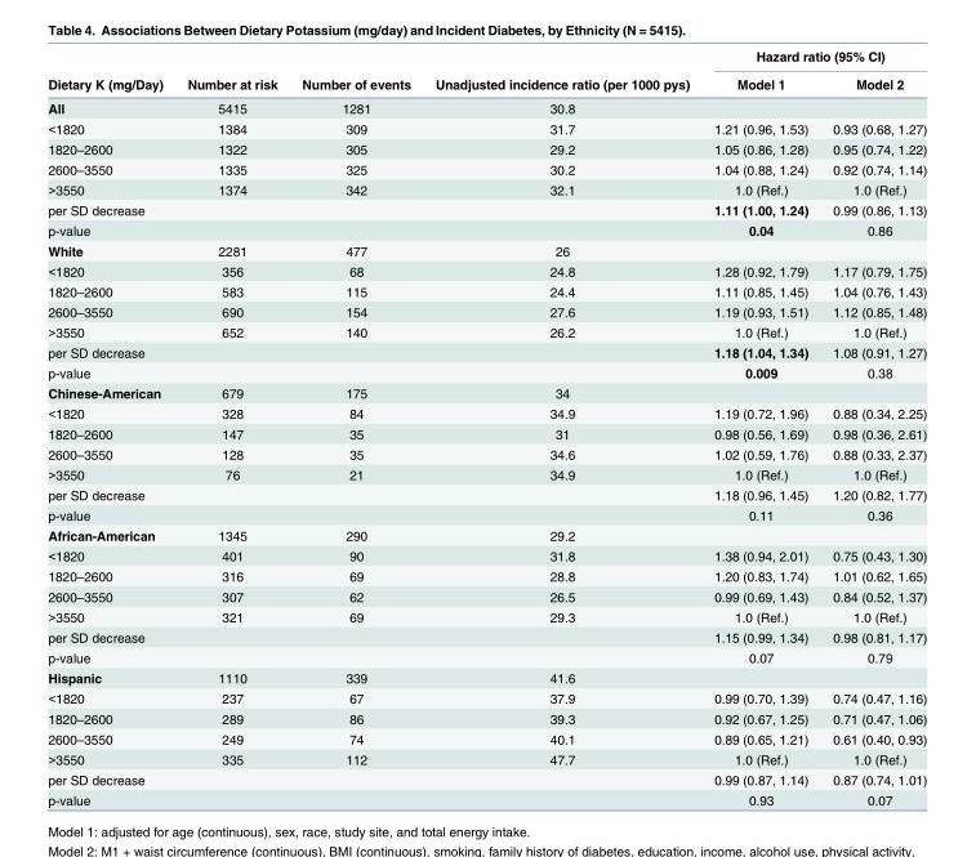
<table><thead><tr><td rowspan="2">Dietary K (mg/Day)</td><td rowspan="2">Number at risk</td><td rowspan="2">Number of events</td><td rowspan="2">Unadjusted incidence ratio (per 1000 pys)</td><td colspan="2">Hazard ratio (95% CI)</td></tr><tr><td>Model 1</td><td>Model 2</td></tr></thead><tbody><tr><td>All</td><td>5415</td><td>1281</td><td>30.8</td><td></td><td></td></tr><tr><td>&lt;1820</td><td>1384</td><td>309</td><td>31.7</td><td>1.21 (0.96, 1.53)</td><td>0.93 (0.68, 1.27)</td></tr><tr><td>1820–2600</td><td>1322</td><td>305</td><td>29.2</td><td>1.05 (0.86, 1.28)</td><td>0.95 (0.74, 1.22)</td></tr><tr><td>2600–3550</td><td>1335</td><td>325</td><td>30.2</td><td>1.04 (0.88, 1.24)</td><td>0.92 (0.74, 1.14)</td></tr><tr><td>&gt;3550</td><td>1374</td><td>342</td><td>32.1</td><td>1.0 (Ref.)</td><td>1.0 (Ref.)</td></tr><tr><td>per SD decrease</td><td></td><td></td><td></td><td>1.11 (1.00, 1.24)</td><td>0.99 (0.86, 1.13)</td></tr><tr><td>p-value</td><td></td><td></td><td></td><td>0.04</td><td>0.86</td></tr><tr><td>White</td><td>2281</td><td>477</td><td>26</td><td></td><td></td></tr><tr><td>&lt;1820</td><td>356</td><td>68</td><td>24.8</td><td>1.28 (0.92, 1.79)</td><td>1.17 (0.79, 1.75)</td></tr><tr><td>1820–2600</td><td>583</td><td>115</td><td>24.4</td><td>1.11 (0.85, 1.45)</td><td>1.04 (0.76, 1.43)</td></tr><tr><td>2600–3550</td><td>690</td><td>154</td><td>27.6</td><td>1.19 (0.93, 1.51)</td><td>1.12 (0.85, 1.48)</td></tr><tr><td>&gt;3550</td><td>652</td><td>140</td><td>26.2</td><td>1.0 (Ref.)</td><td>1.0 (Ref.)</td></tr><tr><td>per SD decrease</td><td></td><td></td><td></td><td>1.18 (1.04, 1.34)</td><td>1.08 (0.91, 1.27)</td></tr><tr><td>p-value</td><td></td><td></td><td></td><td>0.009</td><td>0.38</td></tr><tr><td>Chinese-American</td><td>679</td><td>175</td><td>34</td><td></td><td></td></tr><tr><td>&lt;1820</td><td>328</td><td>84</td><td>34.9</td><td>1.19 (0.72, 1.96)</td><td>0.88 (0.34, 2.25)</td></tr><tr><td>1820–2600</td><td>147</td><td>35</td><td>31</td><td>0.98 (0.56, 1.69)</td><td>0.98 (0.36, 2.61)</td></tr><tr><td>2600–3550</td><td>128</td><td>35</td><td>34.6</td><td>1.02 (0.59, 1.76)</td><td>0.88 (0.33, 2.37)</td></tr><tr><td>&gt;3550</td><td>76</td><td>21</td><td>34.9</td><td>1.0 (Ref.)</td><td>1.0 (Ref.)</td></tr><tr><td>per SD decrease</td><td></td><td></td><td></td><td>1.18 (0.96, 1.45)</td><td>1.20 (0.82, 1.77)</td></tr><tr><td>p-value</td><td></td><td></td><td></td><td>0.11</td><td>0.36</td></tr><tr><td>African-American</td><td>1345</td><td>290</td><td>29.2</td><td></td><td></td></tr><tr><td>&lt;1820</td><td>401</td><td>90</td><td>31.8</td><td>1.38 (0.94, 2.01)</td><td>0.75 (0.43, 1.30)</td></tr><tr><td>1820–2600</td><td>316</td><td>69</td><td>28.8</td><td>1.20 (0.83, 1.74)</td><td>1.01 (0.62, 1.65)</td></tr><tr><td>2600–3550</td><td>307</td><td>62</td><td>26.5</td><td>0.99 (0.69, 1.43)</td><td>0.84 (0.52, 1.37)</td></tr><tr><td>&gt;3550</td><td>321</td><td>69</td><td>29.3</td><td>1.0 (Ref.)</td><td>1.0 (Ref.)</td></tr><tr><td>per SD decrease</td><td></td><td></td><td></td><td>1.15 (0.99, 1.34)</td><td>0.98 (0.81, 1.17)</td></tr><tr><td>p-value</td><td></td><td></td><td></td><td>0.07</td><td>0.79</td></tr><tr><td>Hispanic</td><td>1110</td><td>339</td><td>41.6</td><td></td><td></td></tr><tr><td>&lt;1820</td><td>237</td><td>67</td><td>37.9</td><td>0.99 (0.70, 1.39)</td><td>0.74 (0.47, 1.16)</td></tr><tr><td>1820–2600</td><td>289</td><td>86</td><td>39.3</td><td>0.92 (0.67, 1.25)</td><td>0.71 (0.47, 1.06)</td></tr><tr><td>2600–3550</td><td>249</td><td>74</td><td>40.1</td><td>0.89 (0.65, 1.21)</td><td>0.61 (0.40, 0.93)</td></tr><tr><td>&gt;3550</td><td>335</td><td>112</td><td>47.7</td><td>1.0 (Ref.)</td><td>1.0 (Ref.)</td></tr><tr><td>per SD decrease</td><td></td><td></td><td></td><td>0.99 (0.87, 1.14)</td><td>0.87 (0.74, 1.01)</td></tr><tr><td>p-value</td><td></td><td></td><td></td><td>0.93</td><td>0.07</td></tr></tbody></table>